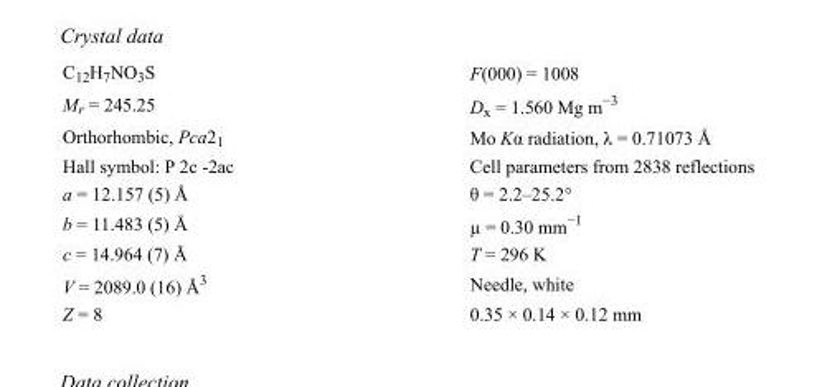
<table><tbody><tr><td>C<sub>12</sub>H<sub>7</sub>NO<sub>3</sub>S</td><td>F(000) = 1008</td></tr><tr><td>M<sub>r</sub> = 245.25</td><td>D<sub>x</sub> = 1.560 Mg m<sup>−3</sup></td></tr><tr><td>Orthorhombic, Pca2<sub>1</sub></td><td>Mo Kα radiation, λ = 0.71073 Å</td></tr><tr><td>Hall symbol: P 2c -2ac</td><td>Cell parameters from 2838 reflections</td></tr><tr><td>a = 12.157 (5) Å</td><td>θ = 2.2–25.2°</td></tr><tr><td>b = 11.483 (5) Å</td><td>µ = 0.30 mm<sup>−1</sup></td></tr><tr><td>c = 14.964 (7) Å</td><td>T = 296 K</td></tr><tr><td>V = 2089.0 (16) Å<sup>3</sup></td><td>Needle, white</td></tr><tr><td>Z = 8</td><td>0.35 × 0.14 × 0.12 mm</td></tr></tbody></table>